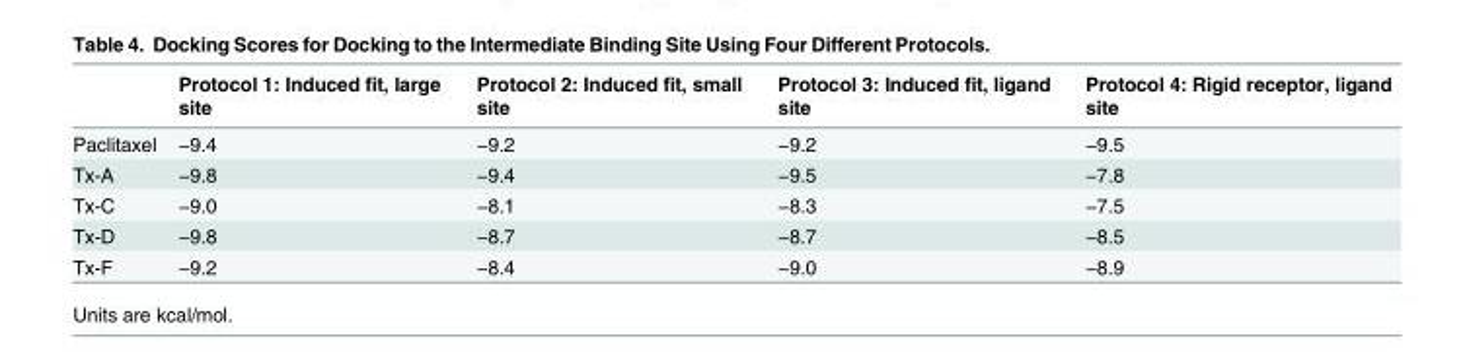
<table><thead><tr><td></td><td>Protocol 1: Induced fit, large site</td><td>Protocol 2: Induced fit, small site</td><td>Protocol 3: Induced fit, ligand site</td><td>Protocol 4: Rigid receptor, ligand site</td></tr></thead><tbody><tr><td>Paclitaxel</td><td>−9.4</td><td>−9.2</td><td>−9.2</td><td>−9.5</td></tr><tr><td>Tx-A</td><td>−9.8</td><td>−9.4</td><td>−9.5</td><td>−7.8</td></tr><tr><td>Tx-C</td><td>−9.0</td><td>−8.1</td><td>−8.3</td><td>−7.5</td></tr><tr><td>Tx-D</td><td>−9.8</td><td>−8.7</td><td>−8.7</td><td>−8.5</td></tr><tr><td>Tx-F</td><td>−9.2</td><td>−8.4</td><td>−9.0</td><td>−8.9</td></tr></tbody></table>